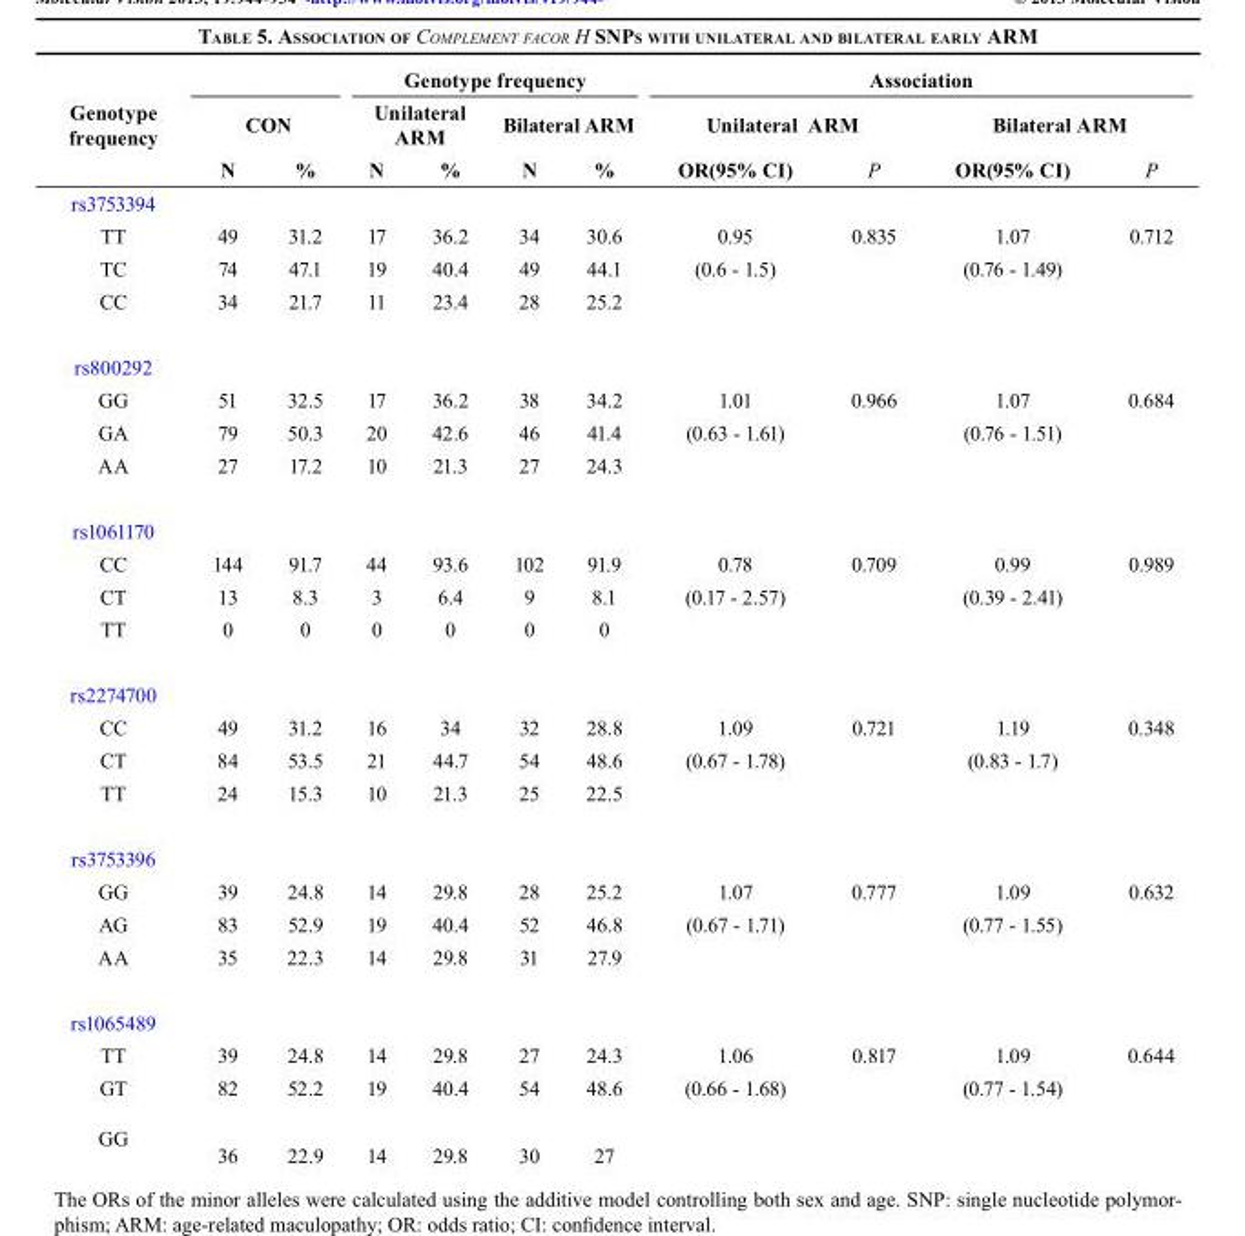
<table><thead><tr><td rowspan="3">Genotype frequency</td><td></td><td></td><td colspan="4">Genotype frequency</td><td colspan="4">Association</td></tr><tr><td colspan="2">CON</td><td colspan="2">Unilateral ARM</td><td colspan="2">Bilateral ARM</td><td colspan="2">Unilateral ARM</td><td colspan="2">Bilateral ARM</td></tr><tr><td>N</td><td>%</td><td>N</td><td>%</td><td>N</td><td>%</td><td>OR(95% CI)</td><td>P</td><td>OR(95% CI)</td><td>P</td></tr></thead><tbody><tr><td colspan="11">rs3753394</td></tr><tr><td>TT</td><td>49</td><td>31.2</td><td>17</td><td>36.2</td><td>34</td><td>30.6</td><td>0.95</td><td>0.835</td><td>1.07</td><td>0.712</td></tr><tr><td>TC</td><td>74</td><td>47.1</td><td>19</td><td>40.4</td><td>49</td><td>44.1</td><td>(0.6 - 1.5)</td><td></td><td>(0.76 - 1.49)</td><td></td></tr><tr><td>CC</td><td>34</td><td>21.7</td><td>11</td><td>23.4</td><td>28</td><td>25.2</td><td></td><td></td><td></td><td></td></tr><tr><td colspan="11">rs800292</td></tr><tr><td>GG</td><td>51</td><td>32.5</td><td>17</td><td>36.2</td><td>38</td><td>34.2</td><td>1.01</td><td>0.966</td><td>1.07</td><td>0.684</td></tr><tr><td>GA</td><td>79</td><td>50.3</td><td>20</td><td>42.6</td><td>46</td><td>41.4</td><td>(0.63 - 1.61)</td><td></td><td>(0.76 - 1.51)</td><td></td></tr><tr><td>AA</td><td>27</td><td>17.2</td><td>10</td><td>21.3</td><td>27</td><td>24.3</td><td></td><td></td><td></td><td></td></tr><tr><td colspan="11">rs1061170</td></tr><tr><td>CC</td><td>144</td><td>91.7</td><td>44</td><td>93.6</td><td>102</td><td>91.9</td><td>0.78</td><td>0.709</td><td>0.99</td><td>0.989</td></tr><tr><td>CT</td><td>13</td><td>8.3</td><td>3</td><td>6.4</td><td>9</td><td>8.1</td><td>(0.17 - 2.57)</td><td></td><td>(0.39 - 2.41)</td><td></td></tr><tr><td>TT</td><td>0</td><td>0</td><td>0</td><td>0</td><td>0</td><td>0</td><td></td><td></td><td></td><td></td></tr><tr><td colspan="11">rs2274700</td></tr><tr><td>CC</td><td>49</td><td>31.2</td><td>16</td><td>34</td><td>32</td><td>28.8</td><td>1.09</td><td>0.721</td><td>1.19</td><td>0.348</td></tr><tr><td>CT</td><td>84</td><td>53.5</td><td>21</td><td>44.7</td><td>54</td><td>48.6</td><td>(0.67 - 1.78)</td><td></td><td>(0.83 - 1.7)</td><td></td></tr><tr><td>TT</td><td>24</td><td>15.3</td><td>10</td><td>21.3</td><td>25</td><td>22.5</td><td></td><td></td><td></td><td></td></tr><tr><td colspan="11">rs3753396</td></tr><tr><td>GG</td><td>39</td><td>24.8</td><td>14</td><td>29.8</td><td>28</td><td>25.2</td><td>1.07</td><td>0.777</td><td>1.09</td><td>0.632</td></tr><tr><td>AG</td><td>83</td><td>52.9</td><td>19</td><td>40.4</td><td>52</td><td>46.8</td><td>(0.67 - 1.71)</td><td></td><td>(0.77 - 1.55)</td><td></td></tr><tr><td>AA</td><td>35</td><td>22.3</td><td>14</td><td>29.8</td><td>31</td><td>27.9</td><td></td><td></td><td></td><td></td></tr><tr><td colspan="11">rs1065489</td></tr><tr><td>TT</td><td>39</td><td>24.8</td><td>14</td><td>29.8</td><td>27</td><td>24.3</td><td>1.06</td><td>0.817</td><td>1.09</td><td>0.644</td></tr><tr><td>GT</td><td>82</td><td>52.2</td><td>19</td><td>40.4</td><td>54</td><td>48.6</td><td>(0.66 - 1.68)</td><td></td><td>(0.77 - 1.54)</td><td></td></tr><tr><td>GG</td><td>36</td><td>22.9</td><td>14</td><td>29.8</td><td>30</td><td>27</td><td></td><td></td><td></td><td></td></tr></tbody></table>